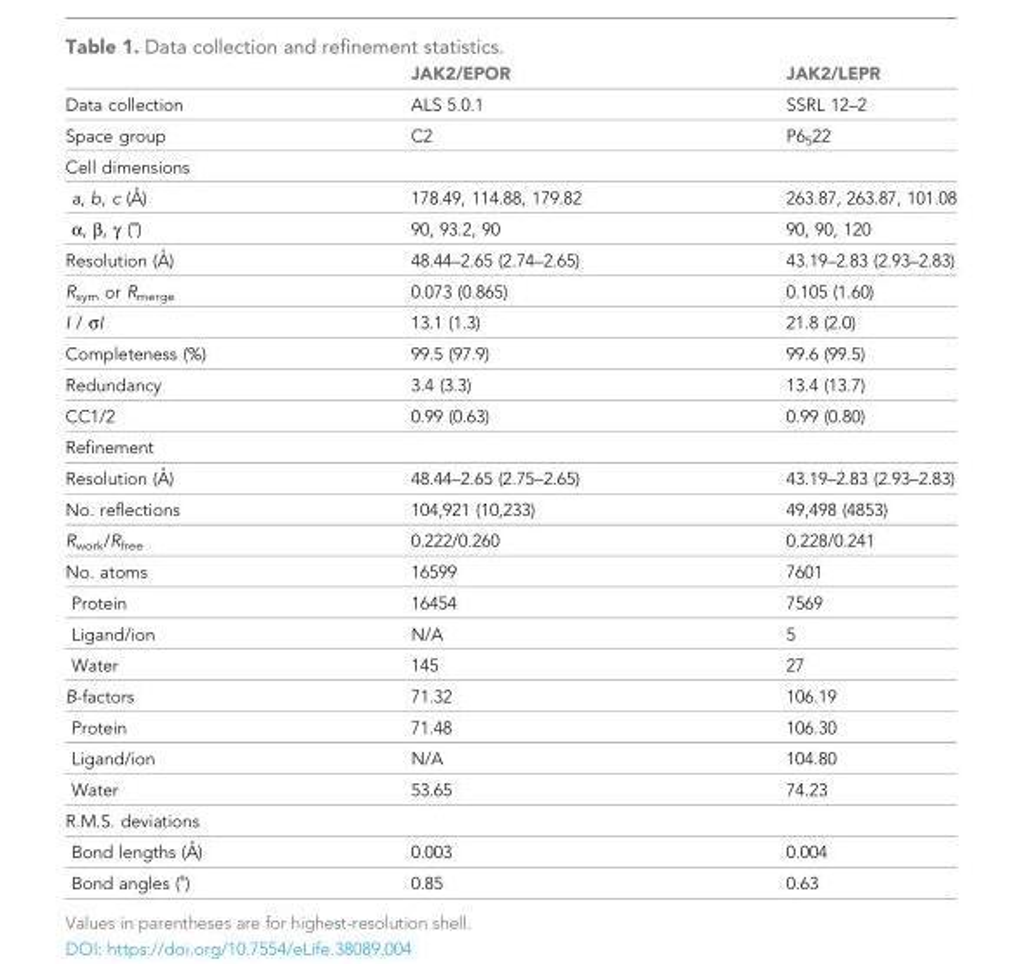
<table><thead><tr><td></td><td>JAK2/EPOR</td><td>JAK2/LEPR</td></tr></thead><tbody><tr><td>Data collection</td><td>ALS 5.0.1</td><td>SSRL 12–2</td></tr><tr><td>Space group</td><td>C2</td><td>P6<sub>5</sub>22</td></tr><tr><td colspan="3">Cell dimensions</td></tr><tr><td>a, b, c (A˚ )</td><td>178.49, 114.88, 179.82</td><td>263.87, 263.87, 101.08</td></tr><tr><td>α, β, γ (˚)</td><td>90, 93.2, 90</td><td>90, 90, 120</td></tr><tr><td>Resolution (A˚ )</td><td>48.44–2.65 (2.74–2.65)</td><td>43.19–2.83 (2.93–2.83)</td></tr><tr><td>R<sub>sym</sub> or R<sub>merge</sub></td><td>0.073 (0.865)</td><td>0.105 (1.60)</td></tr><tr><td>I / σI</td><td>13.1 (1.3)</td><td>21.8 (2.0)</td></tr><tr><td>Completeness (%)</td><td>99.5 (97.9)</td><td>99.6 (99.5)</td></tr><tr><td>Redundancy</td><td>3.4 (3.3)</td><td>13.4 (13.7)</td></tr><tr><td>CC1/2</td><td>0.99 (0.63)</td><td>0.99 (0.80)</td></tr><tr><td colspan="3">Refinement</td></tr><tr><td>Resolution (A˚ )</td><td>48.44–2.65 (2.75–2.65)</td><td>43.19–2.83 (2.93–2.83)</td></tr><tr><td>No. reflections</td><td>104,921 (10,233)</td><td>49,498 (4853)</td></tr><tr><td>R<sub>work</sub>/R<sub>free</sub></td><td>0.222/0.260</td><td>0.228/0.241</td></tr><tr><td>No. atoms</td><td>16599</td><td>7601</td></tr><tr><td>Protein</td><td>16454</td><td>7569</td></tr><tr><td>Ligand/ion</td><td>N/A</td><td>5</td></tr><tr><td>Water</td><td>145</td><td>27</td></tr><tr><td>B-factors</td><td>71.32</td><td>106.19</td></tr><tr><td>Protein</td><td>71.48</td><td>106.30</td></tr><tr><td>Ligand/ion</td><td>N/A</td><td>104.80</td></tr><tr><td>Water</td><td>53.65</td><td>74.23</td></tr><tr><td colspan="3">R.M.S. deviations</td></tr><tr><td>Bond lengths (A˚ )</td><td>0.003</td><td>0.004</td></tr><tr><td>Bond angles (˚)</td><td>0.85</td><td>0.63</td></tr></tbody></table>